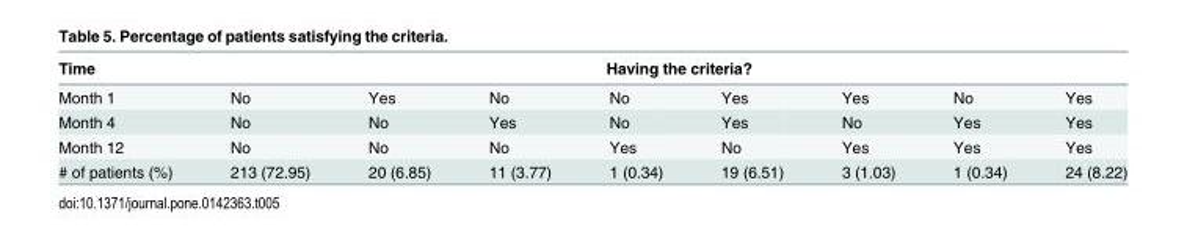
<table><thead><tr><td rowspan="2">Time Month 1</td><td colspan="8">Having the criteria?</td></tr><tr><td>No</td><td>Yes</td><td>No</td><td>No</td><td>Yes</td><td>Yes</td><td>No</td><td>Yes</td></tr></thead><tbody><tr><td>Month 4</td><td>No</td><td>No</td><td>Yes</td><td>No</td><td>Yes</td><td>No</td><td>Yes</td><td>Yes</td></tr><tr><td>Month 12</td><td>No</td><td>No</td><td>No</td><td>Yes</td><td>No</td><td>Yes</td><td>Yes</td><td>Yes</td></tr><tr><td># of patients (%)</td><td>213 (72.95)</td><td>20 (6.85)</td><td>11 (3.77)</td><td>1 (0.34)</td><td>19 (6.51)</td><td>3 (1.03)</td><td>1 (0.34)</td><td>24 (8.22)</td></tr></tbody></table>